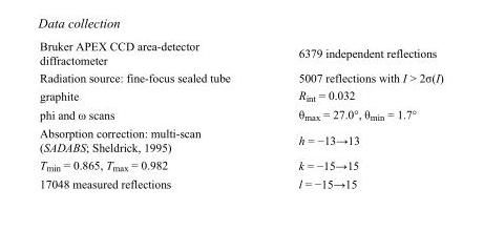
<table><tbody><tr><td>Bruker APEX CCD area-detector diffractometer</td><td>6379 independent reflections</td></tr><tr><td>Radiation source: fine-focus sealed tube</td><td>5007 reflections with I &gt; 2σ(I)</td></tr><tr><td>graphite</td><td>R<sub>int</sub> = 0.032</td></tr><tr><td>phi and ω scans</td><td>θ<sub>max</sub> = 27.0°, θ<sub>min</sub> = 1.7°</td></tr><tr><td>Absorption correction: multi-scan (SADABS; Sheldrick, 1995)</td><td>h = −13→13</td></tr><tr><td>T<sub>min</sub> = 0.865, T<sub>max</sub> = 0.982</td><td>k = −15→15</td></tr><tr><td>17048 measured reflections</td><td>l = −15→15</td></tr></tbody></table>